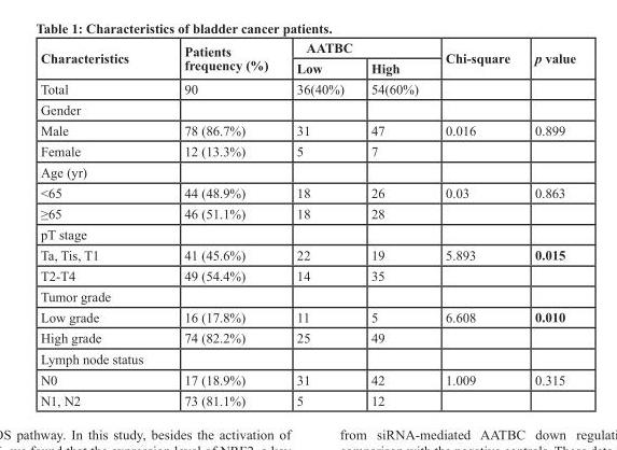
<table><thead><tr><td rowspan="2">Characteristics</td><td rowspan="2">Patients frequency (%)</td><td colspan="2">AATBC</td><td rowspan="2">Chi-square</td><td rowspan="2">p value</td></tr><tr><td>Low</td><td>High</td></tr></thead><tbody><tr><td>Total</td><td>90</td><td>36(40%)</td><td>54(60%)</td><td></td><td></td></tr><tr><td colspan="6">Gender</td></tr><tr><td>Male</td><td>78 (86.7%)</td><td>31</td><td>47</td><td>0.016</td><td>0.899</td></tr><tr><td>Female</td><td>12 (13.3%)</td><td>5</td><td>7</td><td></td><td></td></tr><tr><td colspan="6">Age (yr)</td></tr><tr><td>&lt;65</td><td>44 (48.9%)</td><td>18</td><td>26</td><td>0.03</td><td>0.863</td></tr><tr><td>≥65</td><td>46 (51.1%)</td><td>18</td><td>28</td><td></td><td></td></tr><tr><td colspan="6">pT stage</td></tr><tr><td>Ta, Tis, T1</td><td>41 (45.6%)</td><td>22</td><td>19</td><td>5.893</td><td>0.015</td></tr><tr><td>T2-T4</td><td>49 (54.4%)</td><td>14</td><td>35</td><td></td><td></td></tr><tr><td colspan="6">Tumor grade</td></tr><tr><td>Low grade</td><td>16 (17.8%)</td><td>11</td><td>5</td><td>6.608</td><td>0.010</td></tr><tr><td>High grade</td><td>74 (82.2%)</td><td>25</td><td>49</td><td></td><td></td></tr><tr><td colspan="6">Lymph node status</td></tr><tr><td>N0</td><td>17 (18.9%)</td><td>31</td><td>42</td><td>1.009</td><td>0.315</td></tr><tr><td>N1, N2</td><td>73 (81.1%)</td><td>5</td><td>12</td><td></td><td></td></tr></tbody></table>